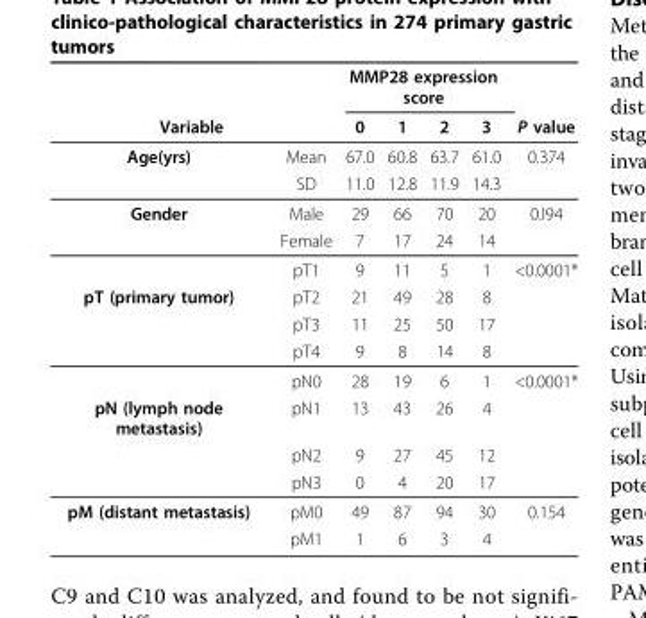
<table><thead><tr><td></td><td></td><td colspan="4">MMP28 expression score</td><td rowspan="2">P value</td></tr><tr><td colspan="2">Variable</td><td>0</td><td>1</td><td>2</td><td>3</td></tr></thead><tbody><tr><td rowspan="2">Age(yrs)</td><td>Mean</td><td>67.0</td><td>60.8</td><td>63.7</td><td>61.0</td><td>0.374</td></tr><tr><td>SD</td><td>11.0</td><td>12.8</td><td>11.9</td><td>14.3</td><td></td></tr><tr><td rowspan="3">Gender</td><td>Male</td><td>29</td><td>66</td><td>70</td><td>20</td><td>0.l94</td></tr><tr><td>Female</td><td>7</td><td>17</td><td>24</td><td>14</td><td></td></tr><tr><td>pT1</td><td>9</td><td>11</td><td>5</td><td>1</td><td>&lt;0.0001*</td></tr><tr><td rowspan="4">pT (primary tumor)</td><td>pT2</td><td>21</td><td>49</td><td>28</td><td>8</td><td></td></tr><tr><td>pT3</td><td>11</td><td>25</td><td>50</td><td>17</td><td></td></tr><tr><td>pT4</td><td>9</td><td>8</td><td>14</td><td>8</td><td></td></tr><tr><td>pN0</td><td>28</td><td>19</td><td>6</td><td>1</td><td>&lt;0.0001*</td></tr><tr><td rowspan="3">pN (lymph node metastasis)</td><td>pN1</td><td>13</td><td>43</td><td>26</td><td>4</td><td></td></tr><tr><td>pN2</td><td>9</td><td>27</td><td>45</td><td>12</td><td></td></tr><tr><td>pN3</td><td>0</td><td>4</td><td>20</td><td>17</td><td></td></tr><tr><td rowspan="2">pM (distant metastasis)</td><td>pM0</td><td>49</td><td>87</td><td>94</td><td>30</td><td>0.154</td></tr><tr><td>pM1</td><td>1</td><td>6</td><td>3</td><td>4</td><td></td></tr></tbody></table>